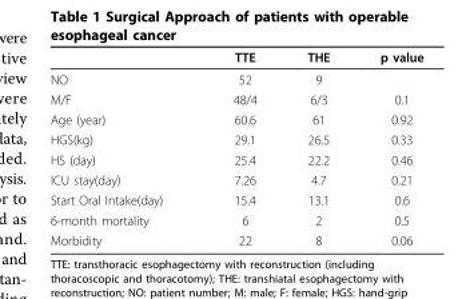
<table><thead><tr><td></td><td>TTE</td><td>THE</td><td>p value</td></tr></thead><tbody><tr><td>NO</td><td>52</td><td>9</td><td></td></tr><tr><td>M/F</td><td>48/4</td><td>6/3</td><td>0.1</td></tr><tr><td>Age (year)</td><td>60.6</td><td>61</td><td>0.92</td></tr><tr><td>HGS(kg)</td><td>29.1</td><td>26.5</td><td>0.33</td></tr><tr><td>HS (day)</td><td>25.4</td><td>22.2</td><td>0.46</td></tr><tr><td>ICU stay(day)</td><td>7.26</td><td>4.7</td><td>0.21</td></tr><tr><td>Start Oral Intake(day)</td><td>15.4</td><td>13.1</td><td>0.6</td></tr><tr><td>6-month mortality</td><td>6</td><td>2</td><td>0.5</td></tr><tr><td>Morbidity</td><td>22</td><td>8</td><td>0.06</td></tr></tbody></table>